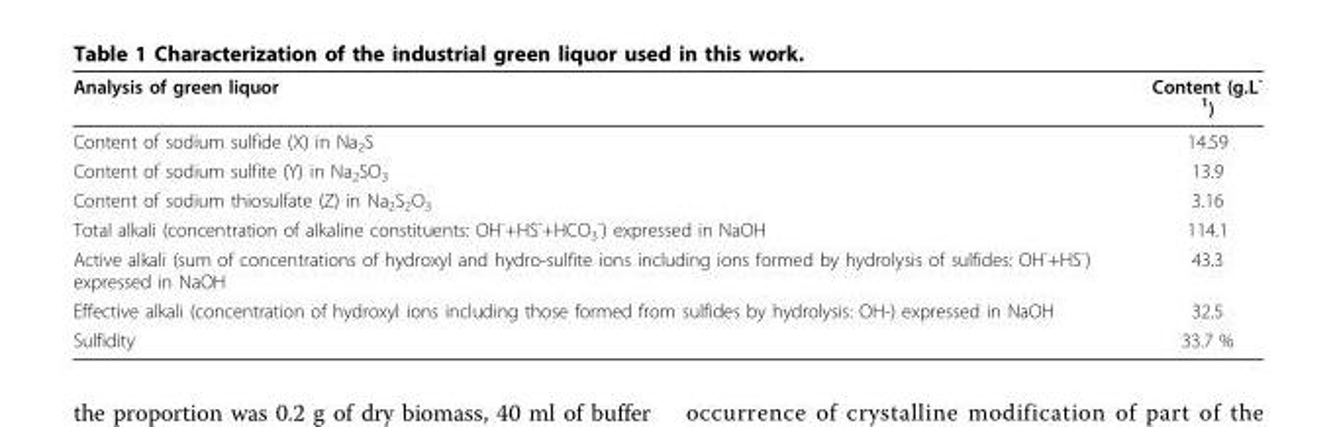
<table><thead><tr><td>Analysis of green liquor</td><td>Content (g.L<sup>- 1</sup>)</td></tr></thead><tbody><tr><td>Content of sodium sulfide (X) in Na<sub>2</sub>S</td><td>14.59</td></tr><tr><td>Content of sodium sulfite (Y) in Na<sub>2</sub>SO<sub>3</sub></td><td>13.9</td></tr><tr><td>Content of sodium thiosulfate (Z) in Na<sub>2</sub>S<sub>2</sub>O<sub>3</sub></td><td>3.16</td></tr><tr><td>Total alkali (concentration of alkaline constituents: OH<sup>-</sup>+HS<sup>-</sup>+HCO<sub>3</sub> <sup>-</sup>) expressed in NaOH</td><td>114.1</td></tr><tr><td>Active alkali (sum of concentrations of hydroxyl and hydro-sulfite ions including ions formed by hydrolysis of sulfides: OH<sup>-</sup>+HS<sup>-</sup>) expressed in NaOH</td><td>43.3</td></tr><tr><td>Effective alkali (concentration of hydroxyl ions including those formed from sulfides by hydrolysis: OH-) expressed in NaOH</td><td>32.5</td></tr><tr><td>Sulfidity</td><td>33.7 %</td></tr></tbody></table>